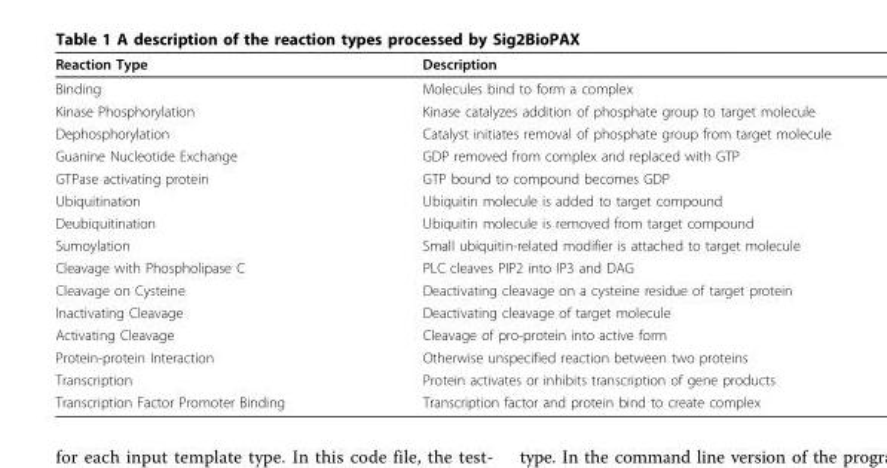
<table><thead><tr><td>Reaction Type</td><td>Description</td></tr></thead><tbody><tr><td>Binding</td><td>Molecules bind to form a complex</td></tr><tr><td>Kinase Phosphorylation</td><td>Kinase catalyzes addition of phosphate group to target molecule</td></tr><tr><td>Dephosphorylation</td><td>Catalyst initiates removal of phosphate group from target molecule</td></tr><tr><td>Guanine Nucleotide Exchange</td><td>GDP removed from complex and replaced with GTP</td></tr><tr><td>GTPase activating protein</td><td>GTP bound to compound becomes GDP</td></tr><tr><td>Ubiquitination</td><td>Ubiquitin molecule is added to target compound</td></tr><tr><td>Deubiquitination</td><td>Ubiquitin molecule is removed from target compound</td></tr><tr><td>Sumoylation</td><td>Small ubiquitin-related modifier is attached to target molecule</td></tr><tr><td>Cleavage with Phospholipase C</td><td>PLC cleaves PIP2 into IP3 and DAG</td></tr><tr><td>Cleavage on Cysteine</td><td>Deactivating cleavage on a cysteine residue of target protein</td></tr><tr><td>Inactivating Cleavage</td><td>Deactivating cleavage of target molecule</td></tr><tr><td>Activating Cleavage</td><td>Cleavage of pro-protein into active form</td></tr><tr><td>Protein-protein Interaction</td><td>Otherwise unspecified reaction between two proteins</td></tr><tr><td>Transcription</td><td>Protein activates or inhibits transcription of gene products</td></tr><tr><td>Transcription Factor Promoter Binding</td><td>Transcription factor and protein bind to create complex</td></tr></tbody></table>